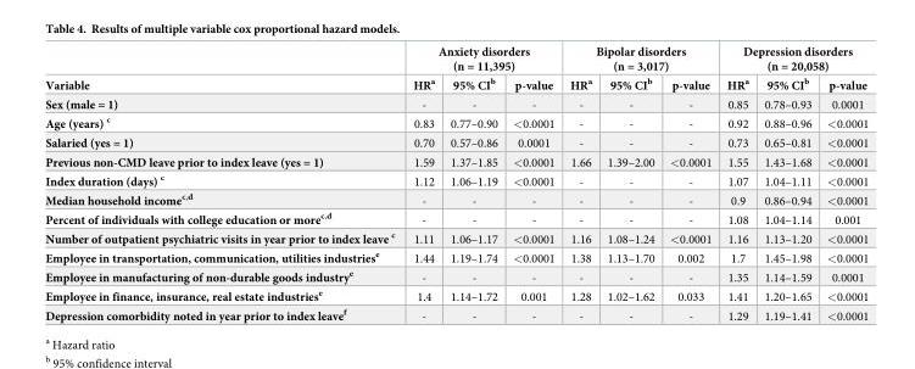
<table><thead><tr><td rowspan="2">Variable</td><td colspan="3">Anxiety disorders (n = 11,395)</td><td colspan="3">Bipolar disorders (n = 3,017)</td><td colspan="3">Depression disorders (n = 20,058)</td></tr><tr><td>HR<sup>a</sup></td><td>95% CI<sup>b</sup></td><td>p-value</td><td>HR<sup>a</sup></td><td>95% CI<sup>b</sup></td><td>p-value</td><td>HR<sup>a</sup></td><td>95% CI<sup>b</sup></td><td>p-value</td></tr></thead><tbody><tr><td>Sex (male = 1)</td><td>-</td><td>-</td><td>-</td><td>-</td><td>-</td><td>-</td><td>0.85</td><td>0.78–0.93</td><td>0.0001</td></tr><tr><td>Age (years) <sup>c</sup></td><td>0.83</td><td>0.77–0.90</td><td>&lt;0.0001</td><td>-</td><td>-</td><td>-</td><td>0.92</td><td>0.88–0.96</td><td>&lt;0.0001</td></tr><tr><td>Salaried (yes = 1)</td><td>0.70</td><td>0.57–0.86</td><td>0.0001</td><td>-</td><td>-</td><td>-</td><td>0.73</td><td>0.65–0.81</td><td>&lt;0.0001</td></tr><tr><td>Previous non-CMD leave prior to index leave (yes = 1)</td><td>1.59</td><td>1.37–1.85</td><td>&lt;0.0001</td><td>1.66</td><td>1.39–2.00</td><td>&lt;0.0001</td><td>1.55</td><td>1.43–1.68</td><td>&lt;0.0001</td></tr><tr><td>Index duration (days) <sup>c</sup></td><td>1.12</td><td>1.06–1.19</td><td>&lt;0.0001</td><td>-</td><td>-</td><td>-</td><td>1.07</td><td>1.04–1.11</td><td>&lt;0.0001</td></tr><tr><td>Median household income<sup>c,d</sup></td><td>-</td><td>-</td><td>-</td><td>-</td><td>-</td><td>-</td><td>0.9</td><td>0.86–0.94</td><td>&lt;0.0001</td></tr><tr><td>Percent of individuals with college education or more<sup>c,d</sup></td><td>-</td><td>-</td><td>-</td><td>-</td><td>-</td><td>-</td><td>1.08</td><td>1.04–1.14</td><td>0.001</td></tr><tr><td>Number of outpatient psychiatric visits in year prior to index leave <sup>c</sup></td><td>1.11</td><td>1.06–1.17</td><td>&lt;0.0001</td><td>1.16</td><td>1.08–1.24</td><td>&lt;0.0001</td><td>1.16</td><td>1.13–1.20</td><td>&lt;0.0001</td></tr><tr><td>Employee in transportation, communication, utilities industries<sup>e</sup></td><td>1.44</td><td>1.19–1.74</td><td>&lt;0.0001</td><td>1.38</td><td>1.13–1.70</td><td>0.002</td><td>1.7</td><td>1.45–1.98</td><td>&lt;0.0001</td></tr><tr><td>Employee in manufacturing of non-durable goods industry<sup>e</sup></td><td>-</td><td>-</td><td>-</td><td>-</td><td>-</td><td>-</td><td>1.35</td><td>1.14–1.59</td><td>0.0001</td></tr><tr><td>Employee in finance, insurance, real estate industries<sup>e</sup></td><td>1.4</td><td>1.14–1.72</td><td>0.001</td><td>1.28</td><td>1.02–1.62</td><td>0.033</td><td>1.41</td><td>1.20–1.65</td><td>&lt;0.0001</td></tr><tr><td>Depression comorbidity noted in year prior to index leave<sup>f</sup></td><td>-</td><td>-</td><td>-</td><td>-</td><td>-</td><td>-</td><td>1.29</td><td>1.19–1.41</td><td>&lt;0.0001</td></tr></tbody></table>